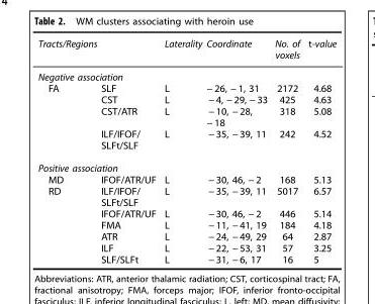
<table><thead><tr><td>Tracts/Regions</td><td></td><td>Laterality</td><td>Coordinate</td><td>No. of voxels</td><td>t-value</td></tr></thead><tbody><tr><td colspan="6">Negative association</td></tr><tr><td rowspan="4">FA</td><td>SLF</td><td>L</td><td>− 26, − 1, 31</td><td>2172</td><td>4.68</td></tr><tr><td>CST</td><td>L</td><td>− 4, − 29, − 33</td><td>425</td><td>4.63</td></tr><tr><td>CST/ATR</td><td>L</td><td>− 10, − 28, − 18</td><td>318</td><td>5.08</td></tr><tr><td>ILF/IFOF/ SLFt/SLF</td><td>L</td><td>− 35, − 39, 11</td><td>242</td><td>4.52</td></tr><tr><td colspan="6">Positive association</td></tr><tr><td>MD</td><td>IFOF/ATR/UF</td><td>L</td><td>− 30, 46, − 2</td><td>168</td><td>5.13</td></tr><tr><td rowspan="6">RD</td><td>ILF/IFOF/ SLFt/SLF</td><td>L</td><td>− 35, − 39, 11</td><td>5017</td><td>6.57</td></tr><tr><td>IFOF/ATR/UF</td><td>L</td><td>− 30, 46, − 2</td><td>446</td><td>5.14</td></tr><tr><td>FMA</td><td>L</td><td>− 11, − 41, 19</td><td>184</td><td>4.18</td></tr><tr><td>ATR</td><td>L</td><td>− 24, − 49, 29</td><td>64</td><td>2.87</td></tr><tr><td>ILF</td><td>L</td><td>− 22, − 53, 31</td><td>57</td><td>3.25</td></tr><tr><td>SLF/SLFt</td><td>L</td><td>− 31, − 6, 17</td><td>16</td><td>5</td></tr></tbody></table>